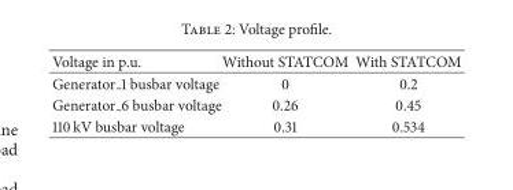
<table><thead><tr><td>Voltage in p.u.</td><td>Without STATCOM</td><td>With STATCOM</td></tr></thead><tbody><tr><td>Generator 1 busbar voltage</td><td>0</td><td>0.2</td></tr><tr><td>Generator 6 busbar voltage</td><td>0.26</td><td>0.45</td></tr><tr><td>110 kV busbar voltage</td><td>0.31</td><td>0.534</td></tr></tbody></table>